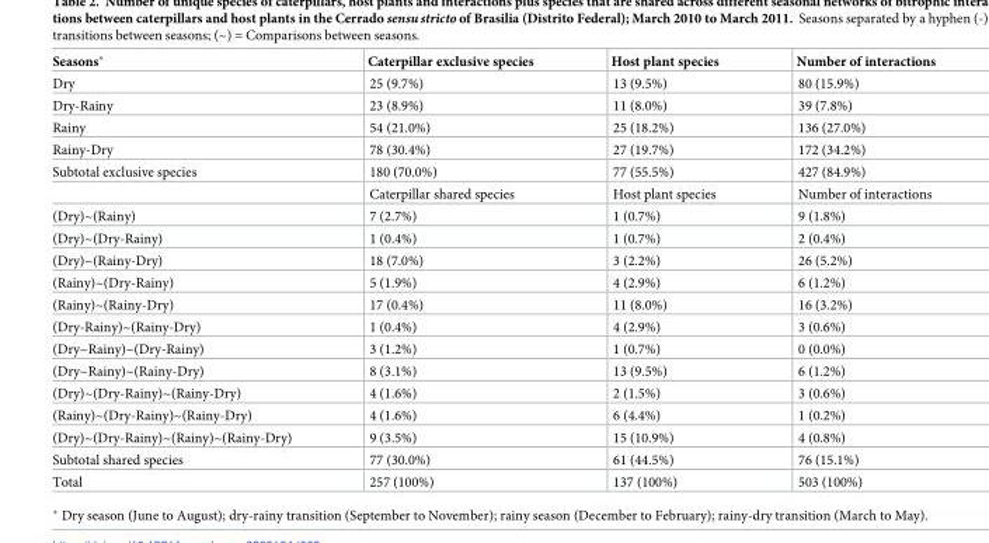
<table><thead><tr><td>Seasons*</td><td>Caterpillar exclusive species</td><td>Host plant species</td><td>Number of interactions</td></tr></thead><tbody><tr><td>Dry</td><td>25 (9.7%)</td><td>13 (9.5%)</td><td>80 (15.9%)</td></tr><tr><td>Dry-Rainy</td><td>23 (8.9%)</td><td>11 (8.0%)</td><td>39 (7.8%)</td></tr><tr><td>Rainy</td><td>54 (21.0%)</td><td>25 (18.2%)</td><td>136 (27.0%)</td></tr><tr><td>Rainy-Dry</td><td>78 (30.4%)</td><td>27 (19.7%)</td><td>172 (34.2%)</td></tr><tr><td rowspan="2">Subtotal exclusive species</td><td>180 (70.0%)</td><td>77 (55.5%)</td><td>427 (84.9%)</td></tr><tr><td>Caterpillar shared species</td><td>Host plant species</td><td>Number of interactions</td></tr><tr><td>(Dry)~(Rainy)</td><td>7 (2.7%)</td><td>1 (0.7%)</td><td>9 (1.8%)</td></tr><tr><td>(Dry)~(Dry-Rainy)</td><td>1 (0.4%)</td><td>1 (0.7%)</td><td>2 (0.4%)</td></tr><tr><td>(Dry)~(Rainy-Dry)</td><td>18 (7.0%)</td><td>3 (2.2%)</td><td>26 (5.2%)</td></tr><tr><td>(Rainy)~(Dry-Rainy)</td><td>5 (1.9%)</td><td>4 (2.9%)</td><td>6 (1.2%)</td></tr><tr><td>(Rainy)~(Rainy-Dry)</td><td>17 (0.4%)</td><td>11 (8.0%)</td><td>16 (3.2%)</td></tr><tr><td>(Dry-Rainy)~(Rainy-Dry)</td><td>1 (0.4%)</td><td>4 (2.9%)</td><td>3 (0.6%)</td></tr><tr><td>(Dry~Rainy)~(Dry-Rainy)</td><td>3 (1.2%)</td><td>1 (0.7%)</td><td>0 (0.0%)</td></tr><tr><td>(Dry~Rainy)~(Rainy-Dry)</td><td>8 (3.1%)</td><td>13 (9.5%)</td><td>6 (1.2%)</td></tr><tr><td>(Dry)~(Dry-Rainy)~(Rainy-Dry)</td><td>4 (1.6%)</td><td>2 (1.5%)</td><td>3 (0.6%)</td></tr><tr><td>(Rainy)~(Dry-Rainy)~(Rainy-Dry)</td><td>4 (1.6%)</td><td>6 (4.4%)</td><td>1 (0.2%)</td></tr><tr><td>(Dry)~(Dry-Rainy)~(Rainy)~(Rainy-Dry)</td><td>9 (3.5%)</td><td>15 (10.9%)</td><td>4 (0.8%)</td></tr><tr><td>Subtotal shared species</td><td>77 (30.0%)</td><td>61 (44.5%)</td><td>76 (15.1%)</td></tr><tr><td>Total</td><td>257 (100%)</td><td>137 (100%)</td><td>503 (100%)</td></tr></tbody></table>